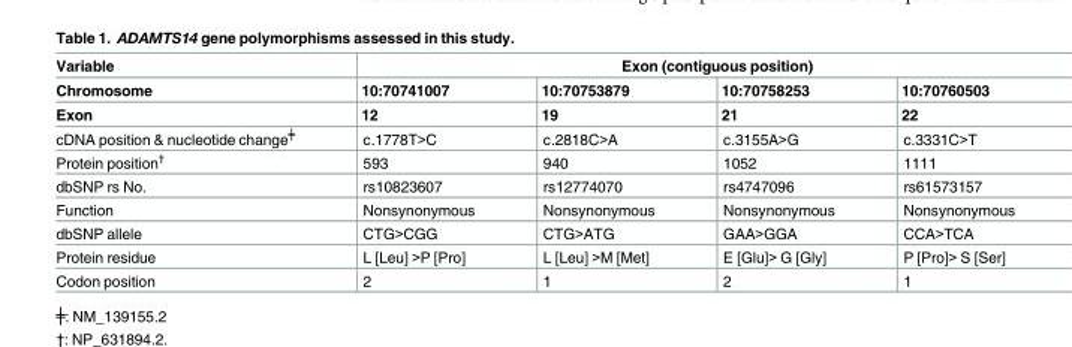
<table><thead><tr><td rowspan="3">Variable Chromosome Exon</td><td colspan="4">Exon (contiguous position)</td></tr><tr><td rowspan="2">10:70741007 12</td><td rowspan="2">10:70753879 19</td><td rowspan="2">10:70758253 21</td><td rowspan="2">10:70760503 22</td></tr><tr></tr></thead><tbody><tr><td>cDNA position &amp; nucleotide change<sup>╪</sup></td><td>c.1778T&gt;C</td><td>c.2818C&gt;A</td><td>c.3155A&gt;G</td><td>c.3331C&gt;T</td></tr><tr><td>Protein position<sup>†</sup></td><td>593</td><td>940</td><td>1052</td><td>1111</td></tr><tr><td>dbSNP rs No.</td><td>rs10823607</td><td>rs12774070</td><td>rs4747096</td><td>rs61573157</td></tr><tr><td>Function</td><td>Nonsynonymous</td><td>Nonsynonymous</td><td>Nonsynonymous</td><td>Nonsynonymous</td></tr><tr><td>dbSNP allele</td><td>CTG&gt;CGG</td><td>CTG&gt;ATG</td><td>GAA&gt;GGA</td><td>CCA&gt;TCA</td></tr><tr><td>Protein residue</td><td>L [Leu] &gt;P [Pro]</td><td>L [Leu] &gt;M [Met]</td><td>E [Glu]&gt; G [Gly]</td><td>P [Pro]&gt; S [Ser]</td></tr><tr><td>Codon position</td><td>2</td><td>1</td><td>2</td><td>1</td></tr></tbody></table>